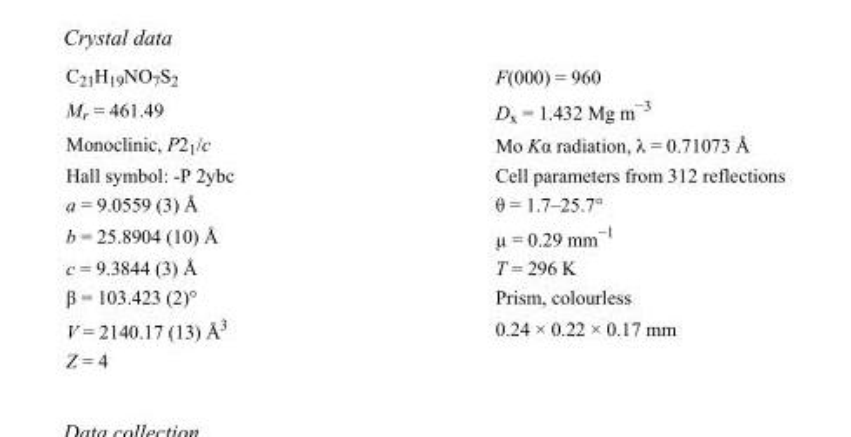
<table><tbody><tr><td>C<sub>21</sub>H<sub>19</sub>NO<sub>7</sub>S<sub>2</sub></td><td>F(000) = 960</td></tr><tr><td>M<sub>r</sub> = 461.49</td><td>D<sub>x</sub> = 1.432 Mg m<sup>−3</sup></td></tr><tr><td>Monoclinic, P2<sub>1</sub>/c</td><td>Mo Kα radiation, λ = 0.71073 Å</td></tr><tr><td>Hall symbol: -P 2ybc</td><td>Cell parameters from 312 reflections</td></tr><tr><td>a = 9.0559 (3) Å</td><td>θ = 1.7–25.7°</td></tr><tr><td>b = 25.8904 (10) Å</td><td>µ = 0.29 mm<sup>−1</sup></td></tr><tr><td>c = 9.3844 (3) Å</td><td>T = 296 K</td></tr><tr><td>β = 103.423 (2)°</td><td>Prism, colourless</td></tr><tr><td>V = 2140.17 (13) Å<sup>3</sup></td><td>0.24 × 0.22 × 0.17 mm</td></tr><tr><td>Z = 4</td><td></td></tr></tbody></table>